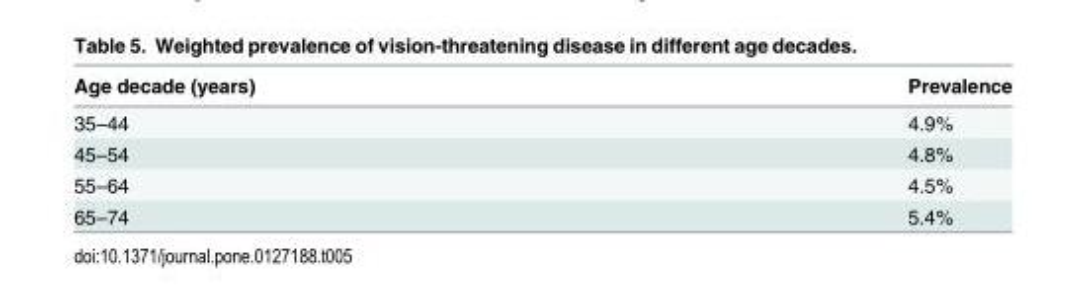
<table><thead><tr><td>Age decade (years)</td><td>Prevalence</td></tr></thead><tbody><tr><td>35–44</td><td>4.9%</td></tr><tr><td>45–54</td><td>4.8%</td></tr><tr><td>55–64</td><td>4.5%</td></tr><tr><td>65–74</td><td>5.4%</td></tr></tbody></table>